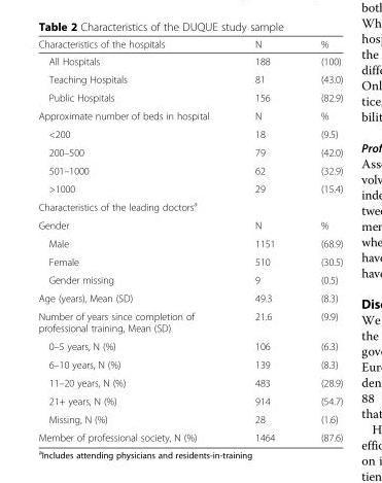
<table><thead><tr><td>Characteristics of the hospitals</td><td>N</td><td>%</td></tr></thead><tbody><tr><td>All Hospitals</td><td>188</td><td>(100)</td></tr><tr><td>Teaching Hospitals</td><td>81</td><td>(43.0)</td></tr><tr><td>Public Hospitals</td><td>156</td><td>(82.9)</td></tr><tr><td>Approximate number of beds in hospital</td><td>N</td><td>%</td></tr><tr><td>&lt;200</td><td>18</td><td>(9.5)</td></tr><tr><td>200–500</td><td>79</td><td>(42.0)</td></tr><tr><td>501–1000</td><td>62</td><td>(32.9)</td></tr><tr><td>&gt;1000</td><td>29</td><td>(15.4)</td></tr><tr><td colspan="3">Characteristics of the leading doctors<sup>a</sup></td></tr><tr><td>Gender</td><td>N</td><td>%</td></tr><tr><td>Male</td><td>1151</td><td>(68.9)</td></tr><tr><td>Female</td><td>510</td><td>(30.5)</td></tr><tr><td>Gender missing</td><td>9</td><td>(0.5)</td></tr><tr><td>Age (years), Mean (SD)</td><td>49.3</td><td>(8.3)</td></tr><tr><td>Number of years since completion of professional training, Mean (SD)</td><td>21.6</td><td>(9.9)</td></tr><tr><td>0–5 years, N (%)</td><td>106</td><td>(6.3)</td></tr><tr><td>6–10 years, N (%)</td><td>139</td><td>(8.3)</td></tr><tr><td>11–20 years, N (%)</td><td>483</td><td>(28.9)</td></tr><tr><td>21+ years, N (%)</td><td>914</td><td>(54.7)</td></tr><tr><td>Missing, N (%)</td><td>28</td><td>(1.6)</td></tr><tr><td>Member of professional society, N (%)</td><td>1464</td><td>(87.6)</td></tr></tbody></table>